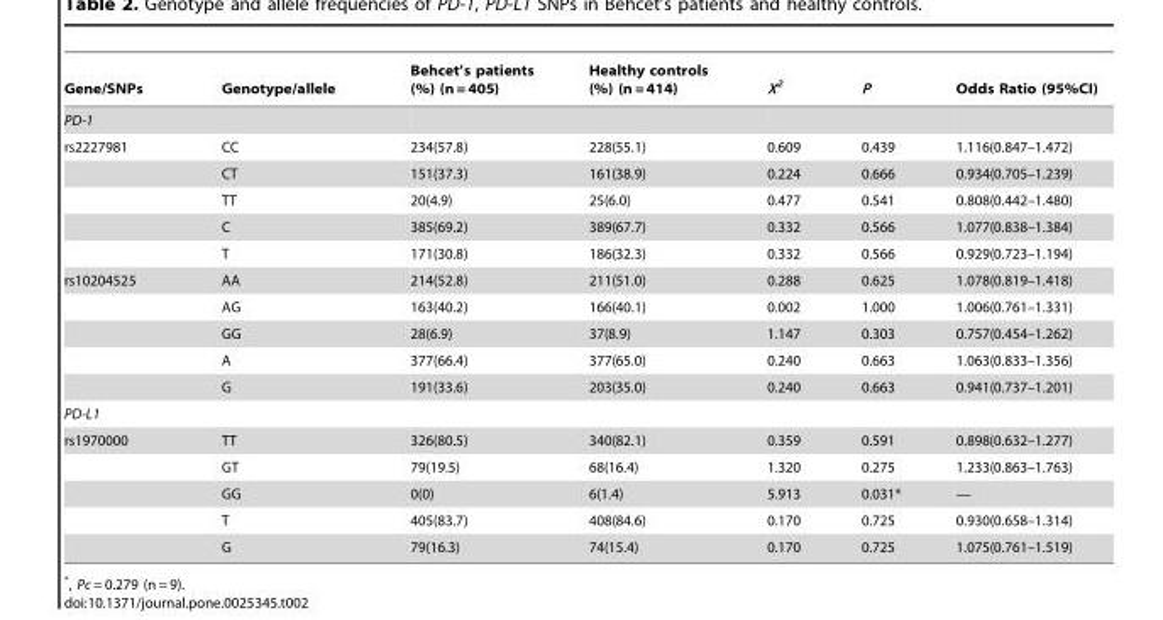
<table><thead><tr><td>Gene/SNPs</td><td>Genotype/allele</td><td>Behcet’s patients (%) (n = 405)</td><td>Healthy controls (%) (n = 414)</td><td>X<sup>2</sup></td><td>P</td><td>Odds Ratio (95%CI)</td></tr></thead><tbody><tr><td colspan="7">PD-1</td></tr><tr><td rowspan="5">rs2227981</td><td>CC</td><td>234(57.8)</td><td>228(55.1)</td><td>0.609</td><td>0.439</td><td>1.116(0.847–1.472)</td></tr><tr><td>CT</td><td>151(37.3)</td><td>161(38.9)</td><td>0.224</td><td>0.666</td><td>0.934(0.705–1.239)</td></tr><tr><td>TT</td><td>20(4.9)</td><td>25(6.0)</td><td>0.477</td><td>0.541</td><td>0.808(0.442–1.480)</td></tr><tr><td>C</td><td>385(69.2)</td><td>389(67.7)</td><td>0.332</td><td>0.566</td><td>1.077(0.838–1.384)</td></tr><tr><td>T</td><td>171(30.8)</td><td>186(32.3)</td><td>0.332</td><td>0.566</td><td>0.929(0.723–1.194)</td></tr><tr><td rowspan="5">rs10204525</td><td>AA</td><td>214(52.8)</td><td>211(51.0)</td><td>0.288</td><td>0.625</td><td>1.078(0.819–1.418)</td></tr><tr><td>AG</td><td>163(40.2)</td><td>166(40.1)</td><td>0.002</td><td>1.000</td><td>1.006(0.761–1.331)</td></tr><tr><td>GG</td><td>28(6.9)</td><td>37(8.9)</td><td>1.147</td><td>0.303</td><td>0.757(0.454–1.262)</td></tr><tr><td>A</td><td>377(66.4)</td><td>377(65.0)</td><td>0.240</td><td>0.663</td><td>1.063(0.833–1.356)</td></tr><tr><td>G</td><td>191(33.6)</td><td>203(35.0)</td><td>0.240</td><td>0.663</td><td>0.941(0.737–1.201)</td></tr><tr><td colspan="7">PD-L1</td></tr><tr><td rowspan="5">rs1970000</td><td>TT</td><td>326(80.5)</td><td>340(82.1)</td><td>0.359</td><td>0.591</td><td>0.898(0.632–1.277)</td></tr><tr><td>GT</td><td>79(19.5)</td><td>68(16.4)</td><td>1.320</td><td>0.275</td><td>1.233(0.863–1.763)</td></tr><tr><td>GG</td><td>0(0)</td><td>6(1.4)</td><td>5.913</td><td>0.031*</td><td>—</td></tr><tr><td>T</td><td>405(83.7)</td><td>408(84.6)</td><td>0.170</td><td>0.725</td><td>0.930(0.658–1.314)</td></tr><tr><td>G</td><td>79(16.3)</td><td>74(15.4)</td><td>0.170</td><td>0.725</td><td>1.075(0.761–1.519)</td></tr></tbody></table>